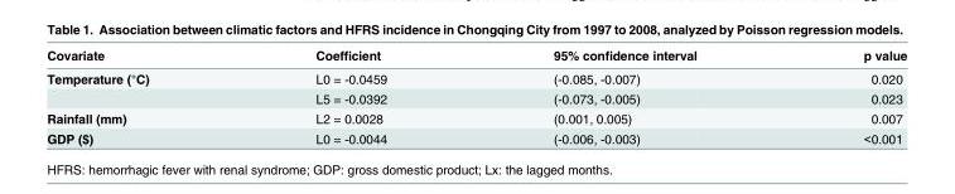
<table><thead><tr><td>Covariate</td><td>Coefficient</td><td>95% confidence interval</td><td>p value</td></tr></thead><tbody><tr><td rowspan="2">Temperature (°C)</td><td>L0 = -0.0459</td><td>(-0.085, -0.007)</td><td>0.020</td></tr><tr><td>L5 = -0.0392</td><td>(-0.073, -0.005)</td><td>0.023</td></tr><tr><td>Rainfall (mm)</td><td>L2 = 0.0028</td><td>(0.001, 0.005)</td><td>0.007</td></tr><tr><td>GDP ($)</td><td>L0 = -0.0044</td><td>(-0.006, -0.003)</td><td>&lt;0.001</td></tr></tbody></table>